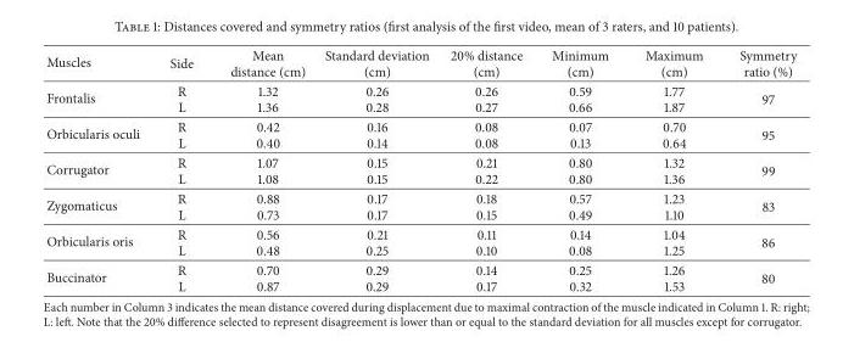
<table><thead><tr><td>Muscles</td><td>Side</td><td>Mean distance (cm)</td><td>Standard deviation (cm)</td><td>20% distance (cm)</td><td>Minimum (cm)</td><td>Maximum (cm)</td><td>Symmetry ratio (%)</td></tr></thead><tbody><tr><td>Frontalis</td><td>R L</td><td>1.32 1.36</td><td>0.26 0.28</td><td>0.26 0.27</td><td>0.59 0.66</td><td>1.77 1.87</td><td>97</td></tr><tr><td>Orbicularis oculi</td><td>R L</td><td>0.42 0.40</td><td>0.16 0.14</td><td>0.08 0.08</td><td>0.07 0.13</td><td>0.70 0.64</td><td>95</td></tr><tr><td>Corrugator</td><td>R L</td><td>1.07 1.08</td><td>0.15 0.15</td><td>0.21 0.22</td><td>0.80 0.80</td><td>1.32 1.36</td><td>99</td></tr><tr><td>Zygomaticus</td><td>R L</td><td>0.88 0.73</td><td>0.17 0.17</td><td>0.18 0.15</td><td>0.57 0.49</td><td>1.23 1.10</td><td>83</td></tr><tr><td>Orbicularis oris</td><td>R L</td><td>0.56 0.48</td><td>0.21 0.25</td><td>0.11 0.10</td><td>0.14 0.08</td><td>1.04 1.25</td><td>86</td></tr><tr><td>Buccinator</td><td>R L</td><td>0.70 0.87</td><td>0.29 0.29</td><td>0.14 0.17</td><td>0.25 0.32</td><td>1.26 1.53</td><td>80</td></tr></tbody></table>